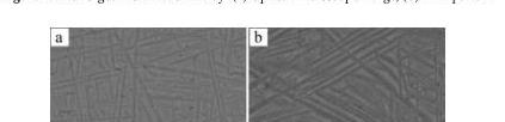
<table><thead><tr><td>Element</td><td>Al</td><td>V</td><td>Zr</td><td>O</td><td>N</td><td>C</td><td>Ti</td></tr></thead><tbody><tr><td>Ti6Al4V30Zr</td><td>5.9</td><td>3.7</td><td>29.3</td><td>0.16</td><td>0.012</td><td>0.01</td><td>Bal.</td></tr></tbody></table>